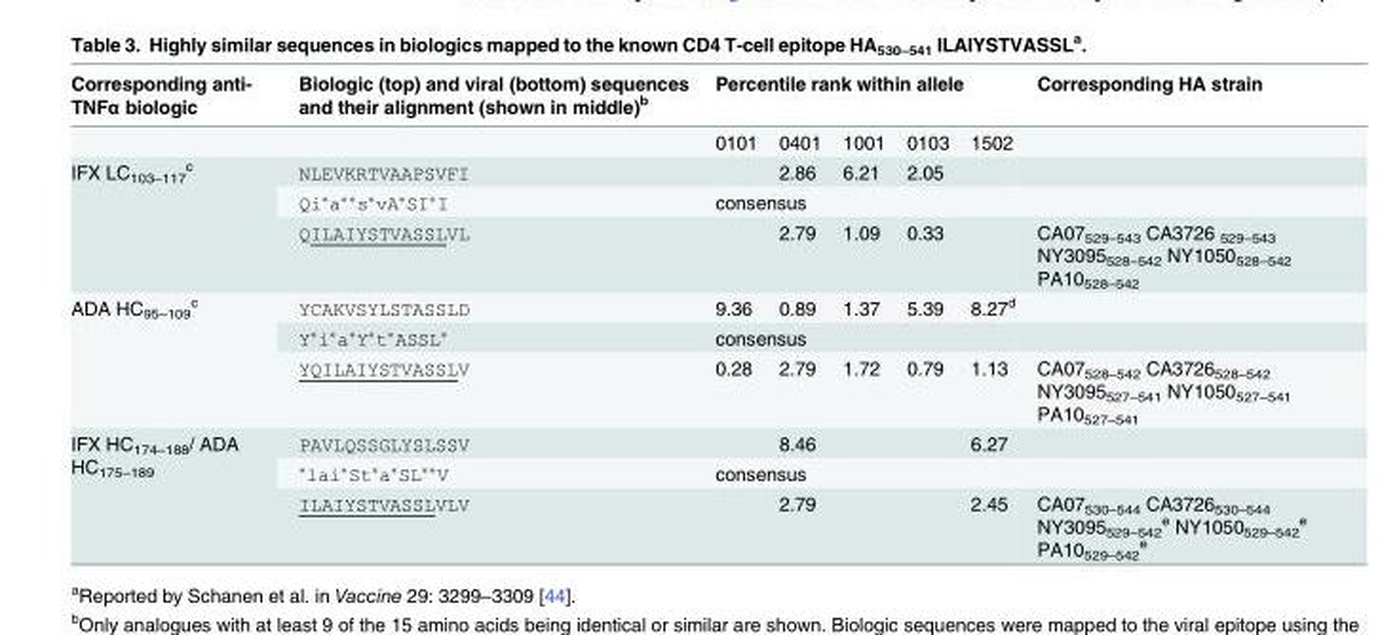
<table><thead><tr><td rowspan="2">Corresponding anti- TNFα biologic</td><td rowspan="2">Biologic (top) and viral (bottom) sequences and their alignment (shown in middle)<sup>b</sup></td><td colspan="5">Percentile rank within allele</td><td rowspan="2">Corresponding HA strain</td></tr><tr><td>0101</td><td>0401</td><td>1001</td><td>0103</td><td>1502</td></tr></thead><tbody><tr><td rowspan="3">IFX LC<sub>103–117</sub> <sup>c</sup></td><td>NLEVKRTVAAPSVFI</td><td></td><td>2.86</td><td>6.21</td><td>2.05</td><td></td><td></td></tr><tr><td>Qi*a**s*vA*SI*I</td><td colspan="5">consensus</td><td></td></tr><tr><td>QILAIYSTVASSLVL</td><td></td><td>2.79</td><td>1.09</td><td>0.33</td><td></td><td>CA07<sub>529–543</sub> CA3726 <sub>529–543</sub> NY3095<sub>528–542</sub> NY1050<sub>528–542</sub> PA10<sub>528–542</sub></td></tr><tr><td rowspan="3">ADA HC<sub>95–109</sub> <sup>c</sup></td><td>YCAKVSYLSTASSLD</td><td>9.36</td><td>0.89</td><td>1.37</td><td>5.39</td><td>8.27<sup>d</sup></td><td></td></tr><tr><td>Y*i*a*Y*t*ASSL*</td><td colspan="5">consensus</td><td></td></tr><tr><td>YQILAIYSTVASSLV</td><td>0.28</td><td>2.79</td><td>1.72</td><td>0.79</td><td>1.13</td><td>CA07<sub>528–542</sub> CA3726<sub>528–542</sub> NY3095<sub>527–541</sub> NY1050<sub>527–541</sub> PA10<sub>527–541</sub></td></tr><tr><td rowspan="3">IFX HC<sub>174–188</sub>/ ADA HC<sub>175–189</sub></td><td>PAVLQSSGLYSLSSV</td><td></td><td>8.46</td><td></td><td></td><td>6.27</td><td></td></tr><tr><td>*lai*St*a*SL**V</td><td colspan="5">consensus</td><td></td></tr><tr><td>ILAIYSTVASSLVLV</td><td></td><td>2.79</td><td></td><td></td><td>2.45</td><td>CA07<sub>530–544</sub> CA3726<sub>530–544</sub> NY3095<sub>529–542</sub> <sup>e</sup> NY1050<sub>529–542</sub> <sup>e</sup> PA10<sub>529–542</sub> <sup>e</sup></td></tr></tbody></table>